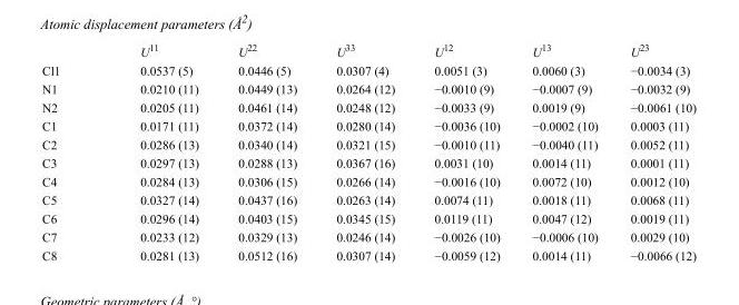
<table><thead><tr><td></td><td>U<sup>11</sup></td><td>U<sup>22</sup></td><td>U<sup>33</sup></td><td>U<sup>12</sup></td><td>U<sup>13</sup></td><td>U<sup>23</sup></td></tr></thead><tbody><tr><td>Cl1</td><td>0.0537 (5)</td><td>0.0446 (5)</td><td>0.0307 (4)</td><td>0.0051 (3)</td><td>0.0060 (3)</td><td>−0.0034 (3)</td></tr><tr><td>N1</td><td>0.0210 (11)</td><td>0.0449 (13)</td><td>0.0264 (12)</td><td>−0.0010 (9)</td><td>−0.0007 (9)</td><td>−0.0032 (9)</td></tr><tr><td>N2</td><td>0.0205 (11)</td><td>0.0461 (14)</td><td>0.0248 (12)</td><td>−0.0033 (9)</td><td>0.0019 (9)</td><td>−0.0061 (10)</td></tr><tr><td>C1</td><td>0.0171 (11)</td><td>0.0372 (14)</td><td>0.0280 (14)</td><td>−0.0036 (10)</td><td>−0.0002 (10)</td><td>0.0003 (11)</td></tr><tr><td>C2</td><td>0.0286 (13)</td><td>0.0340 (14)</td><td>0.0321 (15)</td><td>−0.0010 (11)</td><td>−0.0040 (11)</td><td>0.0052 (11)</td></tr><tr><td>C3</td><td>0.0297 (13)</td><td>0.0288 (13)</td><td>0.0367 (16)</td><td>0.0031 (10)</td><td>0.0014 (11)</td><td>0.0001 (11)</td></tr><tr><td>C4</td><td>0.0284 (13)</td><td>0.0306 (15)</td><td>0.0266 (14)</td><td>−0.0016 (10)</td><td>0.0072 (10)</td><td>0.0012 (10)</td></tr><tr><td>C5</td><td>0.0327 (14)</td><td>0.0437 (16)</td><td>0.0263 (14)</td><td>0.0074 (11)</td><td>0.0018 (11)</td><td>0.0068 (11)</td></tr><tr><td>C6</td><td>0.0296 (14)</td><td>0.0403 (15)</td><td>0.0345 (15)</td><td>0.0119 (11)</td><td>0.0047 (12)</td><td>0.0019 (11)</td></tr><tr><td>C7</td><td>0.0233 (12)</td><td>0.0329 (13)</td><td>0.0246 (14)</td><td>−0.0026 (10)</td><td>−0.0006 (10)</td><td>0.0029 (10)</td></tr><tr><td>C8</td><td>0.0281 (13)</td><td>0.0512 (16)</td><td>0.0307 (14)</td><td>−0.0059 (12)</td><td>0.0014 (11)</td><td>−0.0066 (12)</td></tr></tbody></table>